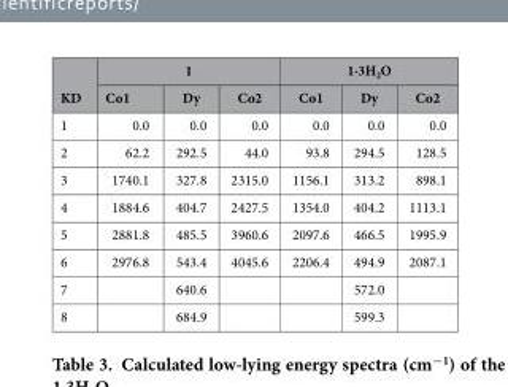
<table><thead><tr><td rowspan="2">KD</td><td colspan="3">1</td><td colspan="3">1·3H<sub>2</sub>O</td></tr><tr><td>Co1</td><td>Dy</td><td>Co2</td><td>Co1</td><td>Dy</td><td>Co2</td></tr></thead><tbody><tr><td>1</td><td>0.0</td><td>0.0</td><td>0.0</td><td>0.0</td><td>0.0</td><td>0.0</td></tr><tr><td>2</td><td>62.2</td><td>292.5</td><td>44.0</td><td>93.8</td><td>294.5</td><td>128.5</td></tr><tr><td>3</td><td>1740.1</td><td>327.8</td><td>2315.0</td><td>1156.1</td><td>313.2</td><td>898.1</td></tr><tr><td>4</td><td>1884.6</td><td>404.7</td><td>2427.5</td><td>1354.0</td><td>404.2</td><td>1113.1</td></tr><tr><td>5</td><td>2881.8</td><td>485.5</td><td>3960.6</td><td>2097.6</td><td>466.5</td><td>1995.9</td></tr><tr><td>6</td><td>2976.8</td><td>543.4</td><td>4045.6</td><td>2206.4</td><td>494.9</td><td>2087.1</td></tr><tr><td>7</td><td></td><td>640.6</td><td></td><td></td><td>572.0</td><td></td></tr><tr><td>8</td><td></td><td>684.9</td><td></td><td></td><td>599.3</td><td></td></tr></tbody></table>